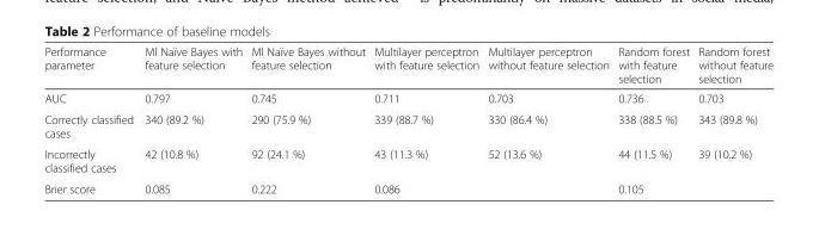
<table><thead><tr><td>Performance parameter</td><td>Ml Naïve Bayes with feature selection</td><td>Ml Naïve Bayes without feature selection</td><td>Multilayer perceptron with feature selection</td><td>Multilayer perceptron without feature selection</td><td>Random forest with feature selection</td><td>Random forest without feature selection</td></tr></thead><tbody><tr><td>AUC</td><td>0.797</td><td>0.745</td><td>0.711</td><td>0.703</td><td>0.736</td><td>0.703</td></tr><tr><td>Correctly classified cases</td><td>340 (89.2 %)</td><td>290 (75.9 %)</td><td>339 (88.7 %)</td><td>330 (86.4 %)</td><td>338 (88.5 %)</td><td>343 (89.8 %)</td></tr><tr><td>Incorrectly classified cases</td><td>42 (10.8 %)</td><td>92 (24.1 %)</td><td>43 (11.3 %)</td><td>52 (13.6 %)</td><td>44 (11.5 %)</td><td>39 (10.2 %)</td></tr><tr><td>Brier score</td><td>0.085</td><td>0.222</td><td>0.086</td><td></td><td>0.105</td><td></td></tr></tbody></table>